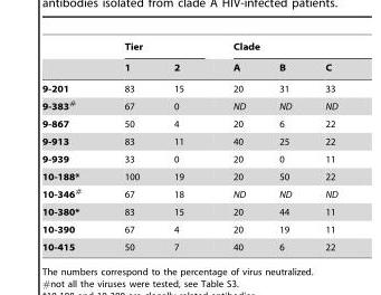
<table><thead><tr><td rowspan="2"></td><td colspan="2">Tier</td><td colspan="3">Clade</td></tr><tr><td>1</td><td>2</td><td>A</td><td>B</td><td>C</td></tr></thead><tbody><tr><td>9-201</td><td>83</td><td>15</td><td>20</td><td>31</td><td>33</td></tr><tr><td>9-383#</td><td>67</td><td>0</td><td>ND</td><td>ND</td><td>ND</td></tr><tr><td>9-867</td><td>50</td><td>4</td><td>20</td><td>6</td><td>22</td></tr><tr><td>9-913</td><td>83</td><td>11</td><td>40</td><td>25</td><td>22</td></tr><tr><td>9-939</td><td>33</td><td>0</td><td>20</td><td>0</td><td>11</td></tr><tr><td>10-188*</td><td>100</td><td>19</td><td>20</td><td>50</td><td>22</td></tr><tr><td>10-346#</td><td>67</td><td>18</td><td>ND</td><td>ND</td><td>ND</td></tr><tr><td>10-380*</td><td>83</td><td>15</td><td>20</td><td>44</td><td>11</td></tr><tr><td>10-390</td><td>67</td><td>4</td><td>20</td><td>19</td><td>11</td></tr><tr><td>10-415</td><td>50</td><td>7</td><td>40</td><td>6</td><td>22</td></tr></tbody></table>